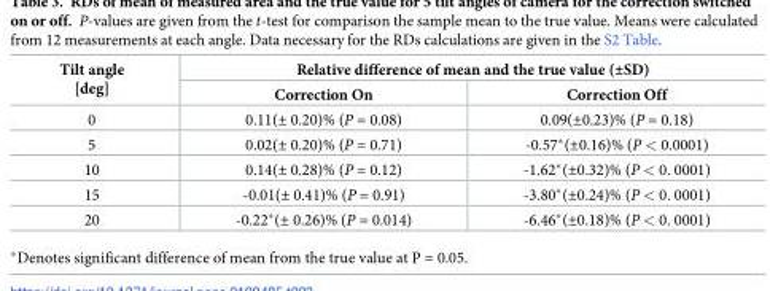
<table><thead><tr><td rowspan="2">Tilt angle [deg]</td><td colspan="2">Relative difference of mean and the true value (±SD)</td></tr><tr><td>Correction On</td><td>Correction Off</td></tr></thead><tbody><tr><td>0</td><td>0.11(± 0.20)% (P = 0.08)</td><td>0.09(±0.23)% (P = 0.18)</td></tr><tr><td>5</td><td>0.02(± 0.20)% (P = 0.71)</td><td>-0.57*(±0.16)% (P &lt; 0.0001)</td></tr><tr><td>10</td><td>0.14(± 0.28)% (P = 0.12)</td><td>-1.62*(±0.32)% (P &lt; 0. 0001)</td></tr><tr><td>15</td><td>-0.01(± 0.41)% (P = 0.91)</td><td>-3.80*(±0.24)% (P &lt; 0. 0001)</td></tr><tr><td>20</td><td>-0.22*(± 0.26)% (P = 0.014)</td><td>-6.46*(±0.18)% (P &lt; 0. 0001)</td></tr></tbody></table>